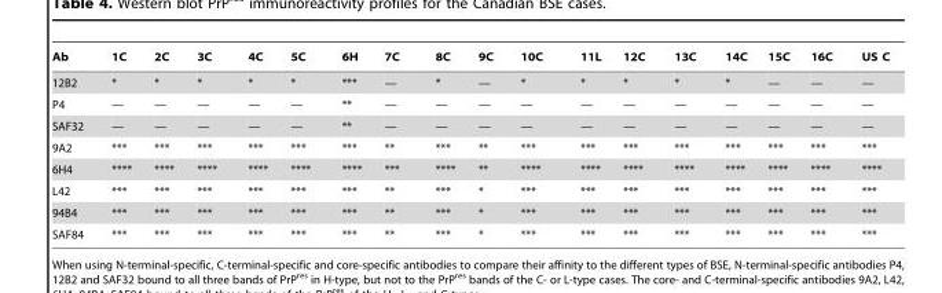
<table><thead><tr><td>Ab</td><td>1C</td><td>2C</td><td>3C</td><td>4C</td><td>5C</td><td>6H</td><td>7C</td><td>8C</td><td>9C</td><td>10C</td><td>11L</td><td>12C</td><td>13C</td><td>14C</td><td>15C</td><td>16C</td><td>US C</td></tr></thead><tbody><tr><td>12B2</td><td>*</td><td>*</td><td>*</td><td>*</td><td>*</td><td>***</td><td>—</td><td>*</td><td>—</td><td>*</td><td>*</td><td>*</td><td>*</td><td>*</td><td>—</td><td>—</td><td>—</td></tr><tr><td>P4</td><td>—</td><td>—</td><td>—</td><td>—</td><td>—</td><td>**</td><td>—</td><td>—</td><td>—</td><td>—</td><td>—</td><td>—</td><td>—</td><td>—</td><td>—</td><td>—</td><td>—</td></tr><tr><td>SAF32</td><td>—</td><td>—</td><td>—</td><td>—</td><td>—</td><td>**</td><td>—</td><td>—</td><td>—</td><td>—</td><td>—</td><td>—</td><td>—</td><td>—</td><td>—</td><td>—</td><td>—</td></tr><tr><td>9A2</td><td>***</td><td>***</td><td>***</td><td>***</td><td>***</td><td>***</td><td>**</td><td>***</td><td>**</td><td>***</td><td>***</td><td>***</td><td>***</td><td>***</td><td>***</td><td>***</td><td>***</td></tr><tr><td>6H4</td><td>****</td><td>****</td><td>****</td><td>****</td><td>****</td><td>****</td><td>***</td><td>****</td><td>**</td><td>****</td><td>****</td><td>****</td><td>****</td><td>****</td><td>****</td><td>****</td><td>****</td></tr><tr><td>L42</td><td>***</td><td>***</td><td>***</td><td>***</td><td>***</td><td>***</td><td>**</td><td>***</td><td>*</td><td>***</td><td>***</td><td>***</td><td>***</td><td>***</td><td>***</td><td>***</td><td>***</td></tr><tr><td>94B4</td><td>***</td><td>***</td><td>***</td><td>***</td><td>***</td><td>***</td><td>**</td><td>***</td><td>*</td><td>***</td><td>***</td><td>***</td><td>***</td><td>***</td><td>***</td><td>***</td><td>***</td></tr><tr><td>SAF84</td><td>***</td><td>***</td><td>***</td><td>***</td><td>***</td><td>***</td><td>**</td><td>***</td><td>*</td><td>***</td><td>***</td><td>***</td><td>***</td><td>***</td><td>***</td><td>***</td><td>***</td></tr></tbody></table>